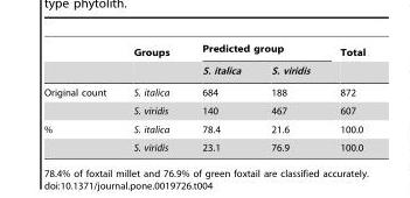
<table><thead><tr><td rowspan="2"></td><td rowspan="2">Groups</td><td colspan="2">Predicted group</td><td rowspan="2">Total</td></tr><tr><td>S. italica</td><td>S. viridis</td></tr></thead><tbody><tr><td rowspan="2">Original count</td><td>S. italica</td><td>684</td><td>188</td><td>872</td></tr><tr><td>S. viridis</td><td>140</td><td>467</td><td>607</td></tr><tr><td rowspan="2">%</td><td>S. italica</td><td>78.4</td><td>21.6</td><td>100.0</td></tr><tr><td>S. viridis</td><td>23.1</td><td>76.9</td><td>100.0</td></tr></tbody></table>